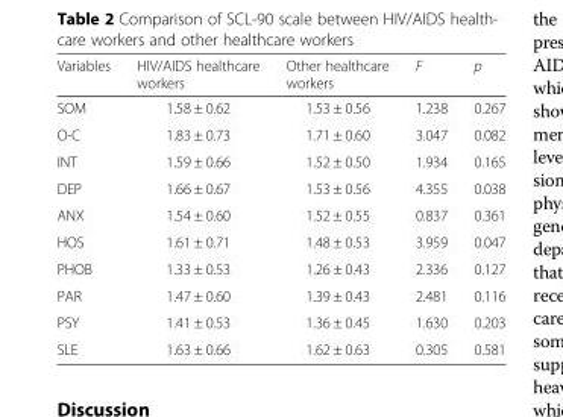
<table><thead><tr><td>Variables</td><td>HIV/AIDS healthcare workers</td><td>Other healthcare workers</td><td>F</td><td>p</td></tr></thead><tbody><tr><td>SOM</td><td>1.58 ± 0.62</td><td>1.53 ± 0.56</td><td>1.238</td><td>0.267</td></tr><tr><td>O-C</td><td>1.83 ± 0.73</td><td>1.71 ± 0.60</td><td>3.047</td><td>0.082</td></tr><tr><td>INT</td><td>1.59 ± 0.66</td><td>1.52 ± 0.50</td><td>1.934</td><td>0.165</td></tr><tr><td>DEP</td><td>1.66 ± 0.67</td><td>1.53 ± 0.56</td><td>4.355</td><td>0.038</td></tr><tr><td>ANX</td><td>1.54 ± 0.60</td><td>1.52 ± 0.55</td><td>0.837</td><td>0.361</td></tr><tr><td>HOS</td><td>1.61 ± 0.71</td><td>1.48 ± 0.53</td><td>3.959</td><td>0.047</td></tr><tr><td>PHOB</td><td>1.33 ± 0.53</td><td>1.26 ± 0.43</td><td>2.336</td><td>0.127</td></tr><tr><td>PAR</td><td>1.47 ± 0.60</td><td>1.39 ± 0.43</td><td>2.481</td><td>0.116</td></tr><tr><td>PSY</td><td>1.41 ± 0.53</td><td>1.36 ± 0.45</td><td>1.630</td><td>0.203</td></tr><tr><td>SLE</td><td>1.63 ± 0.66</td><td>1.62 ± 0.63</td><td>0.305</td><td>0.581</td></tr></tbody></table>